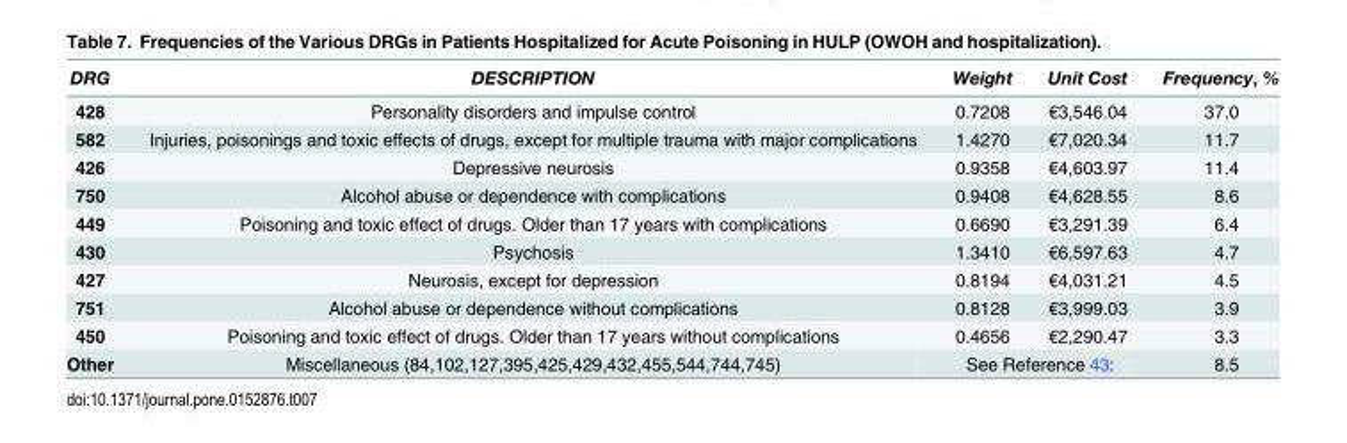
<table><thead><tr><td>DRG</td><td>DESCRIPTION</td><td>Weight</td><td>Unit Cost</td><td>Frequency, %</td></tr></thead><tbody><tr><td>428</td><td>Personality disorders and impulse control</td><td>0.7208</td><td>€3,546.04</td><td>37.0</td></tr><tr><td>582</td><td>Injuries, poisonings and toxic effects of drugs, except for multiple trauma with major complications</td><td>1.4270</td><td>€7,020.34</td><td>11.7</td></tr><tr><td>426</td><td>Depressive neurosis</td><td>0.9358</td><td>€4,603.97</td><td>11.4</td></tr><tr><td>750</td><td>Alcohol abuse or dependence with complications</td><td>0.9408</td><td>€4,628.55</td><td>8.6</td></tr><tr><td>449</td><td>Poisoning and toxic effect of drugs. Older than 17 years with complications</td><td>0.6690</td><td>€3,291.39</td><td>6.4</td></tr><tr><td>430</td><td>Psychosis</td><td>1.3410</td><td>€6,597.63</td><td>4.7</td></tr><tr><td>427</td><td>Neurosis, except for depression</td><td>0.8194</td><td>€4,031.21</td><td>4.5</td></tr><tr><td>751</td><td>Alcohol abuse or dependence without complications</td><td>0.8128</td><td>€3,999.03</td><td>3.9</td></tr><tr><td>450</td><td>Poisoning and toxic effect of drugs. Older than 17 years without complications</td><td>0.4656</td><td>€2,290.47</td><td>3.3</td></tr><tr><td>Other</td><td>Miscellaneous (84,102,127,395,425,429,432,455,544,744,745)</td><td colspan="2">See Reference 43:</td><td>8.5</td></tr></tbody></table>